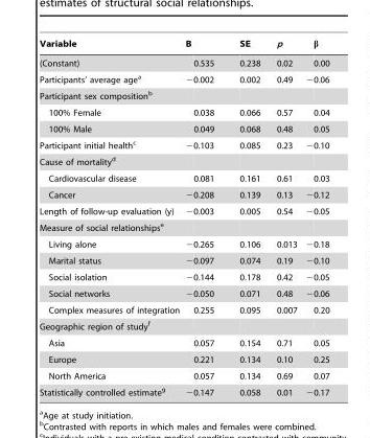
<table><thead><tr><td>Variable</td><td>B</td><td>SE</td><td>p</td><td>β</td></tr></thead><tbody><tr><td>(Constant)</td><td>0.535</td><td>0.238</td><td>0.02</td><td>0.00</td></tr><tr><td>Participants’ average age<sup>a</sup></td><td>−0.002</td><td>0.002</td><td>0.49</td><td>−0.06</td></tr><tr><td colspan="5">Participant sex composition<sup>b</sup></td></tr><tr><td>100% Female</td><td>0.038</td><td>0.066</td><td>0.57</td><td>0.04</td></tr><tr><td>100% Male</td><td>0.049</td><td>0.068</td><td>0.48</td><td>0.05</td></tr><tr><td>Participant initial health<sup>c</sup></td><td>−0.103</td><td>0.085</td><td>0.23</td><td>−0.10</td></tr><tr><td colspan="5">Cause of mortality<sup>d</sup></td></tr><tr><td>Cardiovascular disease</td><td>0.081</td><td>0.161</td><td>0.61</td><td>0.03</td></tr><tr><td>Cancer</td><td>−0.208</td><td>0.139</td><td>0.13</td><td>−0.12</td></tr><tr><td>Length of follow-up evaluation (y)</td><td>−0.003</td><td>0.005</td><td>0.54</td><td>−0.05</td></tr><tr><td colspan="5">Measure of social relationships<sup>e</sup></td></tr><tr><td>Living alone</td><td>−0.265</td><td>0.106</td><td>0.013</td><td>−0.18</td></tr><tr><td>Marital status</td><td>−0.097</td><td>0.074</td><td>0.19</td><td>−0.10</td></tr><tr><td>Social isolation</td><td>−0.144</td><td>0.178</td><td>0.42</td><td>−0.05</td></tr><tr><td>Social networks</td><td>−0.050</td><td>0.071</td><td>0.48</td><td>−0.06</td></tr><tr><td>Complex measures of integration</td><td>0.255</td><td>0.095</td><td>0.007</td><td>0.20</td></tr><tr><td colspan="5">Geographic region of study<sup>f</sup></td></tr><tr><td>Asia</td><td>0.057</td><td>0.154</td><td>0.71</td><td>0.05</td></tr><tr><td>Europe</td><td>0.221</td><td>0.134</td><td>0.10</td><td>0.25</td></tr><tr><td>North America</td><td>0.057</td><td>0.134</td><td>0.69</td><td>0.07</td></tr><tr><td>Statistically controlled estimate<sup>g</sup></td><td>−0.147</td><td>0.058</td><td>0.01</td><td>−0.17</td></tr></tbody></table>